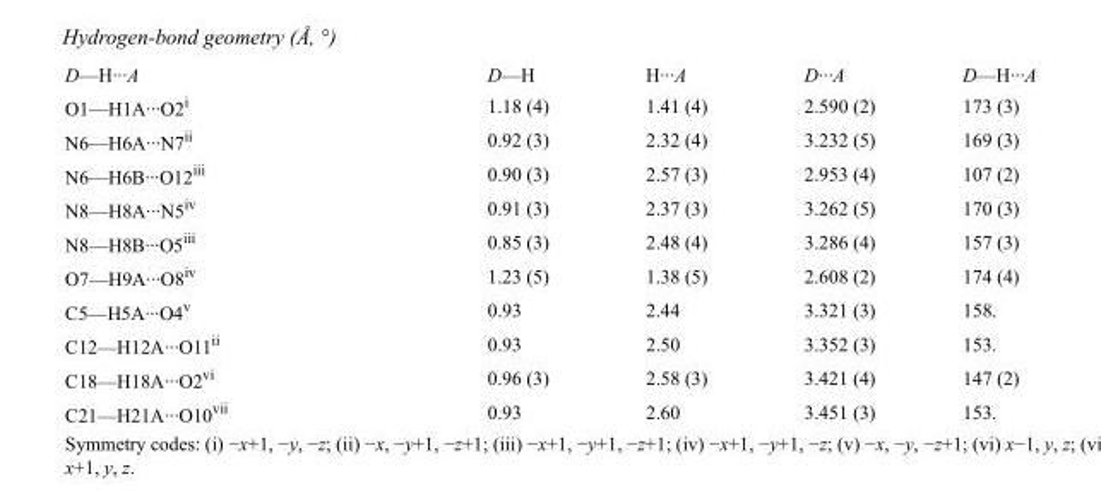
<table><tbody><tr><td>D—H···A</td><td>D—H</td><td>H···A</td><td>D···A</td><td>D—H···A</td></tr><tr><td>O1—H1A···O2<sup>i</sup></td><td>1.18 (4)</td><td>1.41 (4)</td><td>2.590 (2)</td><td>173 (3)</td></tr><tr><td>N6—H6A···N7<sup>ii</sup></td><td>0.92 (3)</td><td>2.32 (4)</td><td>3.232 (5)</td><td>169 (3)</td></tr><tr><td>N6—H6B···O12<sup>iii</sup></td><td>0.90 (3)</td><td>2.57 (3)</td><td>2.953 (4)</td><td>107 (2)</td></tr><tr><td>N8—H8A···N5<sup>iv</sup></td><td>0.91 (3)</td><td>2.37 (3)</td><td>3.262 (5)</td><td>170 (3)</td></tr><tr><td>N8—H8B···O5<sup>iii</sup></td><td>0.85 (3)</td><td>2.48 (4)</td><td>3.286 (4)</td><td>157 (3)</td></tr><tr><td>O7—H9A···O8<sup>iv</sup></td><td>1.23 (5)</td><td>1.38 (5)</td><td>2.608 (2)</td><td>174 (4)</td></tr><tr><td>C5—H5A···O4<sup>v</sup></td><td>0.93</td><td>2.44</td><td>3.321 (3)</td><td>158.</td></tr><tr><td>C12—H12A···O11<sup>ii</sup></td><td>0.93</td><td>2.50</td><td>3.352 (3)</td><td>153.</td></tr><tr><td>C18—H18A···O2<sup>vi</sup></td><td>0.96 (3)</td><td>2.58 (3)</td><td>3.421 (4)</td><td>147 (2)</td></tr><tr><td>C21—H21A···O10<sup>vii</sup></td><td>0.93</td><td>2.60</td><td>3.451 (3)</td><td>153.</td></tr></tbody></table>